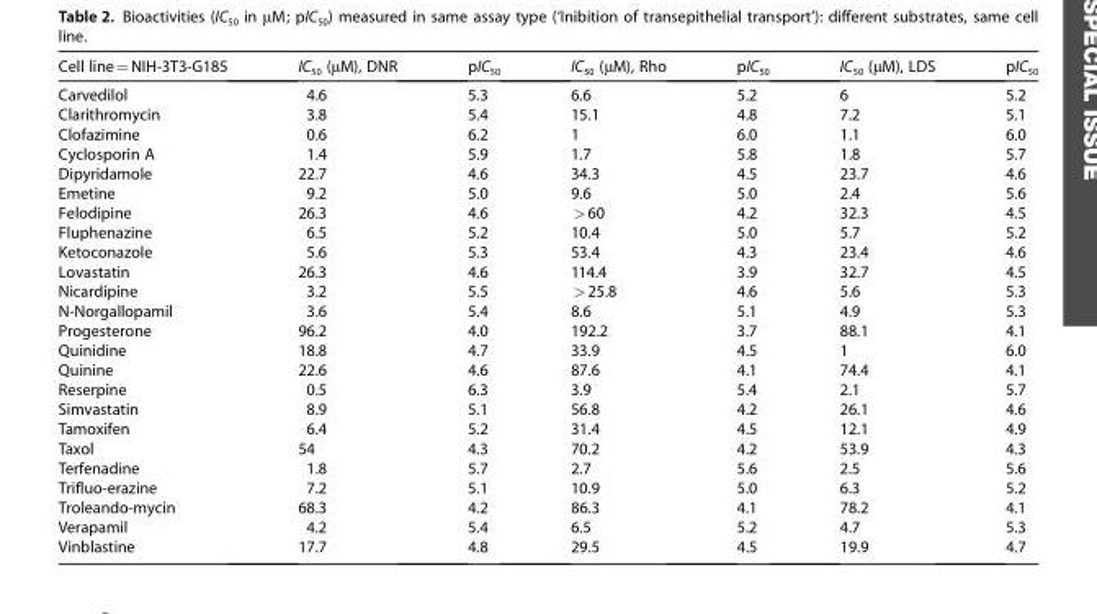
<table><thead><tr><td>Cell line=NIH-3T3-G185</td><td>IC<sub>50</sub> (µM), DNR</td><td>pIC<sub>50</sub></td><td>IC<sub>50</sub> (µM), Rho</td><td>pIC<sub>50</sub></td><td>IC<sub>50</sub> (µM), LDS</td><td>pIC<sub>50</sub></td></tr></thead><tbody><tr><td>Carvedilol</td><td>4.6</td><td>5.3</td><td>6.6</td><td>5.2</td><td>6</td><td>5.2</td></tr><tr><td>Clarithromycin</td><td>3.8</td><td>5.4</td><td>15.1</td><td>4.8</td><td>7.2</td><td>5.1</td></tr><tr><td>Clofazimine</td><td>0.6</td><td>6.2</td><td>1</td><td>6.0</td><td>1.1</td><td>6.0</td></tr><tr><td>Cyclosporin A</td><td>1.4</td><td>5.9</td><td>1.7</td><td>5.8</td><td>1.8</td><td>5.7</td></tr><tr><td>Dipyridamole</td><td>22.7</td><td>4.6</td><td>34.3</td><td>4.5</td><td>23.7</td><td>4.6</td></tr><tr><td>Emetine</td><td>9.2</td><td>5.0</td><td>9.6</td><td>5.0</td><td>2.4</td><td>5.6</td></tr><tr><td>Felodipine</td><td>26.3</td><td>4.6</td><td>&gt;60</td><td>4.2</td><td>32.3</td><td>4.5</td></tr><tr><td>Fluphenazine</td><td>6.5</td><td>5.2</td><td>10.4</td><td>5.0</td><td>5.7</td><td>5.2</td></tr><tr><td>Ketoconazole</td><td>5.6</td><td>5.3</td><td>53.4</td><td>4.3</td><td>23.4</td><td>4.6</td></tr><tr><td>Lovastatin</td><td>26.3</td><td>4.6</td><td>114.4</td><td>3.9</td><td>32.7</td><td>4.5</td></tr><tr><td>Nicardipine</td><td>3.2</td><td>5.5</td><td>&gt;25.8</td><td>4.6</td><td>5.6</td><td>5.3</td></tr><tr><td>N-Norgallopamil</td><td>3.6</td><td>5.4</td><td>8.6</td><td>5.1</td><td>4.9</td><td>5.3</td></tr><tr><td>Progesterone</td><td>96.2</td><td>4.0</td><td>192.2</td><td>3.7</td><td>88.1</td><td>4.1</td></tr><tr><td>Quinidine</td><td>18.8</td><td>4.7</td><td>33.9</td><td>4.5</td><td>1</td><td>6.0</td></tr><tr><td>Quinine</td><td>22.6</td><td>4.6</td><td>87.6</td><td>4.1</td><td>74.4</td><td>4.1</td></tr><tr><td>Reserpine</td><td>0.5</td><td>6.3</td><td>3.9</td><td>5.4</td><td>2.1</td><td>5.7</td></tr><tr><td>Simvastatin</td><td>8.9</td><td>5.1</td><td>56.8</td><td>4.2</td><td>26.1</td><td>4.6</td></tr><tr><td>Tamoxifen</td><td>6.4</td><td>5.2</td><td>31.4</td><td>4.5</td><td>12.1</td><td>4.9</td></tr><tr><td>Taxol</td><td>54</td><td>4.3</td><td>70.2</td><td>4.2</td><td>53.9</td><td>4.3</td></tr><tr><td>Terfenadine</td><td>1.8</td><td>5.7</td><td>2.7</td><td>5.6</td><td>2.5</td><td>5.6</td></tr><tr><td>Trifluo-erazine</td><td>7.2</td><td>5.1</td><td>10.9</td><td>5.0</td><td>6.3</td><td>5.2</td></tr><tr><td>Troleando-mycin</td><td>68.3</td><td>4.2</td><td>86.3</td><td>4.1</td><td>78.2</td><td>4.1</td></tr><tr><td>Verapamil</td><td>4.2</td><td>5.4</td><td>6.5</td><td>5.2</td><td>4.7</td><td>5.3</td></tr><tr><td>Vinblastine</td><td>17.7</td><td>4.8</td><td>29.5</td><td>4.5</td><td>19.9</td><td>4.7</td></tr></tbody></table>